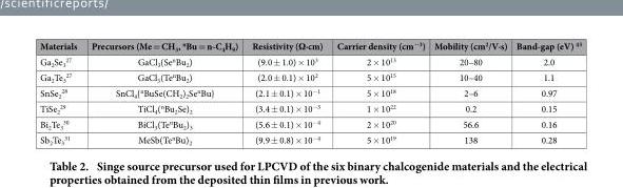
<table><thead><tr><td>Materials</td><td>Precursors (Me = CH<sub>3</sub>, <sup>n</sup>Bu = n-C<sub>4</sub>H<sub>9</sub>)</td><td>Resistivity (Ω∙cm)</td><td>Carrier density (cm<sup>−3</sup>)</td><td>Mobility (cm<sup>2</sup>/V∙s)</td><td>Band-gap (eV) <sup>43</sup></td></tr></thead><tbody><tr><td>Ga<sub>2</sub>Se<sub>3</sub> <sup>27</sup></td><td>GaCl<sub>3</sub>(Se<sup>n</sup>Bu<sub>2</sub>)</td><td>(9.0 ± 1.0) × 10<sup>3</sup></td><td>2 × 10<sup>13</sup></td><td>20–80</td><td>2.0</td></tr><tr><td>Ga<sub>2</sub>Te<sub>3</sub> <sup>27</sup></td><td>GaCl<sub>3</sub>(Te<sup>n</sup>Bu<sub>2</sub>)</td><td>(2.0 ± 0.1) × 10<sup>2</sup></td><td>5 × 10<sup>15</sup></td><td>10–40</td><td>1.1</td></tr><tr><td>SnSe<sub>2</sub> <sup>28</sup></td><td>SnCl<sub>4</sub>{<sup>n</sup>BuSe(CH<sub>2</sub>)<sub>2</sub>Se<sup>n</sup>Bu}</td><td>(2.1 ± 0.1) × 10<sup>−1</sup></td><td>5 × 10<sup>18</sup></td><td>2–6</td><td>0.97</td></tr><tr><td>TiSe<sub>2</sub> <sup>29</sup></td><td>TiCl<sub>4</sub>(<sup>n</sup>Bu<sub>2</sub>Se)<sub>2</sub></td><td>(3.4 ± 0.1) × 10<sup>−3</sup></td><td>1 × 10<sup>22</sup></td><td>0.2</td><td>0.15</td></tr><tr><td>Bi<sub>2</sub>Te<sub>3</sub> <sup>30</sup></td><td>BiCl<sub>3</sub>(Te<sup>n</sup>Bu<sub>2</sub>)<sub>3</sub></td><td>(5.6 ± 0.1) × 10<sup>−4</sup></td><td>2 × 10<sup>20</sup></td><td>56.6</td><td>0.16</td></tr><tr><td>Sb<sub>2</sub>Te<sub>3</sub> <sup>31</sup></td><td>MeSb(Te<sup>n</sup>Bu)<sub>2</sub></td><td>(9.9 ± 0.8) × 10<sup>−4</sup></td><td>5 × 10<sup>19</sup></td><td>138</td><td>0.28</td></tr></tbody></table>